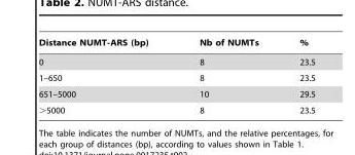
<table><thead><tr><td>Distance NUMT-ARS (bp)</td><td>Nb of NUMTs</td><td>%</td></tr></thead><tbody><tr><td>0</td><td>8</td><td>23.5</td></tr><tr><td>1–650</td><td>8</td><td>23.5</td></tr><tr><td>651–5000</td><td>10</td><td>29.5</td></tr><tr><td>&gt;5000</td><td>8</td><td>23.5</td></tr></tbody></table>